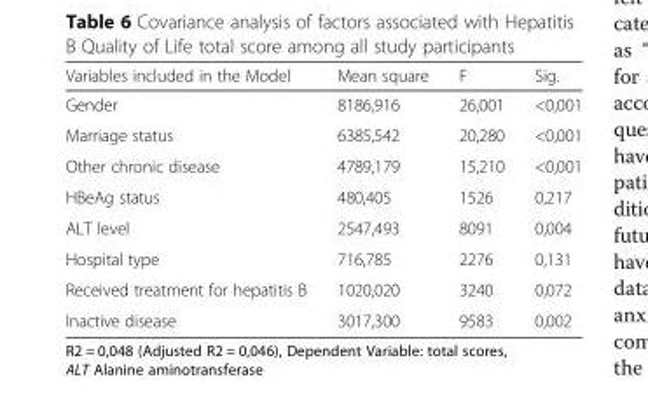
<table><thead><tr><td>Variables included in the Model</td><td>Mean square</td><td>F</td><td>Sig.</td></tr></thead><tbody><tr><td>Gender</td><td>8186,916</td><td>26,001</td><td>&lt;0,001</td></tr><tr><td>Marriage status</td><td>6385,542</td><td>20,280</td><td>&lt;0,001</td></tr><tr><td>Other chronic disease</td><td>4789,179</td><td>15,210</td><td>&lt;0,001</td></tr><tr><td>HBeAg status</td><td>480,405</td><td>1526</td><td>0,217</td></tr><tr><td>ALT level</td><td>2547,493</td><td>8091</td><td>0,004</td></tr><tr><td>Hospital type</td><td>716,785</td><td>2276</td><td>0,131</td></tr><tr><td>Received treatment for hepatitis B</td><td>1020,020</td><td>3240</td><td>0,072</td></tr><tr><td>Inactive disease</td><td>3017,300</td><td>9583</td><td>0,002</td></tr></tbody></table>